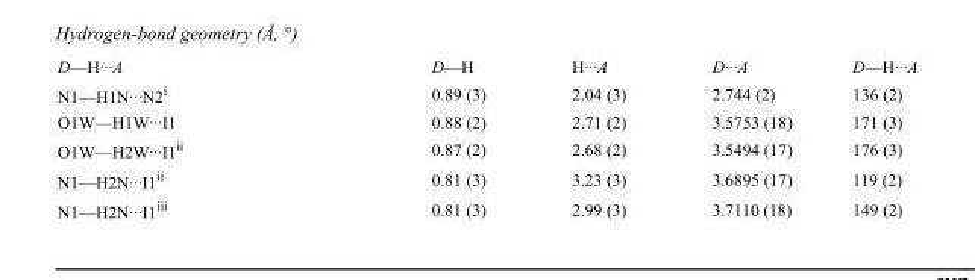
<table><tbody><tr><td>D—H···A</td><td>D—H</td><td>H···A</td><td>D···A</td><td>D—H···A</td></tr><tr><td>N1—H1N···N2<sup>i</sup></td><td>0.89 (3)</td><td>2.04 (3)</td><td>2.744 (2)</td><td>136 (2)</td></tr><tr><td>O1W—H1W···I1</td><td>0.88 (2)</td><td>2.71 (2)</td><td>3.5753 (18)</td><td>171 (3)</td></tr><tr><td>O1W—H2W···I1<sup>ii</sup></td><td>0.87 (2)</td><td>2.68 (2)</td><td>3.5494 (17)</td><td>176 (3)</td></tr><tr><td>N1—H2N···I1<sup>ii</sup></td><td>0.81 (3)</td><td>3.23 (3)</td><td>3.6895 (17)</td><td>119 (2)</td></tr><tr><td>N1—H2N···I1<sup>iii</sup></td><td>0.81 (3)</td><td>2.99 (3)</td><td>3.7110 (18)</td><td>149 (2)</td></tr></tbody></table>